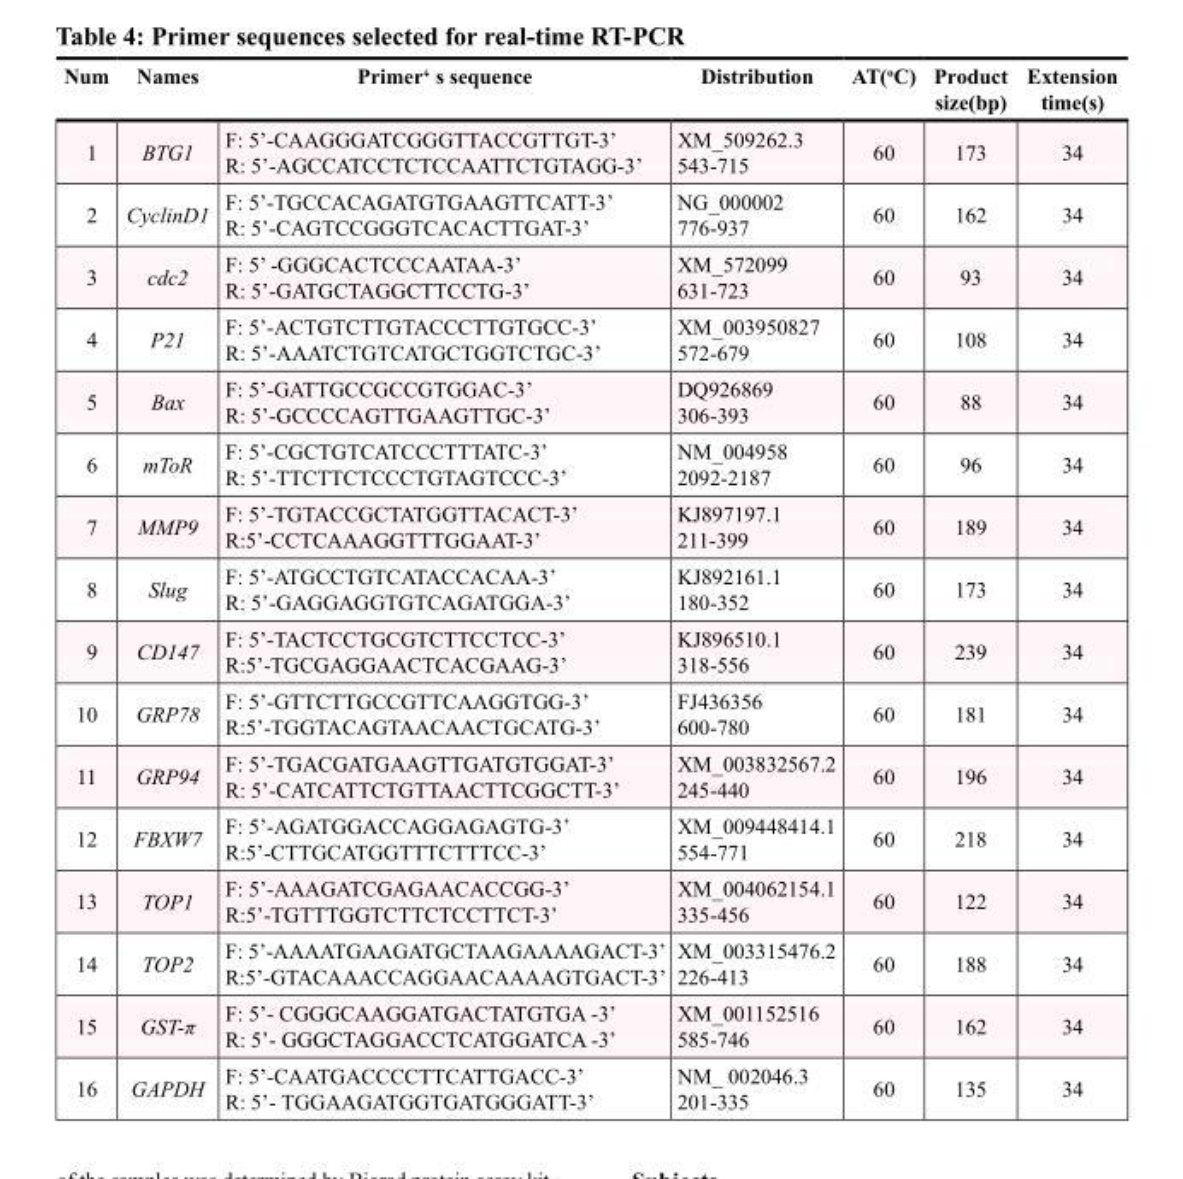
<table><thead><tr><td>Num</td><td>Names</td><td>Primer‘ s sequence</td><td>Distribution</td><td>AT(°C)</td><td>Product size(bp)</td><td>Extension time(s)</td></tr></thead><tbody><tr><td>1</td><td>BTG1</td><td>F: 5’-CAAGGGATCGGGTTACCGTTGT-3’ R: 5’-AGCCATCCTCTCCAATTCTGTAGG-3’</td><td>XM_509262.3 543-715</td><td>60</td><td>173</td><td>34</td></tr><tr><td>2</td><td>CyclinD1</td><td>F: 5’-TGCCACAGATGTGAAGTTCATT-3’ R: 5’-CAGTCCGGGTCACACTTGAT-3’</td><td>NG_000002 776-937</td><td>60</td><td>162</td><td>34</td></tr><tr><td>3</td><td>cdc2</td><td>F: 5’ -GGGCACTCCCAATAA-3’ R: 5’-GATGCTAGGCTTCCTG-3’</td><td>XM_572099 631-723</td><td>60</td><td>93</td><td>34</td></tr><tr><td>4</td><td>P21</td><td>F: 5’-ACTGTCTTGTACCCTTGTGCC-3’ R: 5’-AAATCTGTCATGCTGGTCTGC-3’</td><td>XM_003950827 572-679</td><td>60</td><td>108</td><td>34</td></tr><tr><td>5</td><td>Bax</td><td>F: 5’-GATTGCCGCCGTGGAC-3’ R: 5’-GCCCCAGTTGAAGTTGC-3’</td><td>DQ926869 306-393</td><td>60</td><td>88</td><td>34</td></tr><tr><td>6</td><td>mToR</td><td>F: 5’-CGCTGTCATCCCTTTATC-3’ R: 5’-TTCTTCTCCCTGTAGTCCC-3’</td><td>NM_004958 2092-2187</td><td>60</td><td>96</td><td>34</td></tr><tr><td>7</td><td>MMP9</td><td>F: 5’-TGTACCGCTATGGTTACACT-3’ R:5’-CCTCAAAGGTTTGGAAT-3’</td><td>KJ897197.1 211-399</td><td>60</td><td>189</td><td>34</td></tr><tr><td>8</td><td>Slug</td><td>F: 5’-ATGCCTGTCATACCACAA-3’ R: 5’-GAGGAGGTGTCAGATGGA-3’</td><td>KJ892161.1 180-352</td><td>60</td><td>173</td><td>34</td></tr><tr><td>9</td><td>CD147</td><td>F: 5’-TACTCCTGCGTCTTCCTCC-3’ R:5’-TGCGAGGAACTCACGAAG-3’</td><td>KJ896510.1 318-556</td><td>60</td><td>239</td><td>34</td></tr><tr><td>10</td><td>GRP78</td><td>F: 5’-GTTCTTGCCGTTCAAGGTGG-3’ R:5’-TGGTACAGTAACAACTGCATG-3’</td><td>FJ436356 600-780</td><td>60</td><td>181</td><td>34</td></tr><tr><td>11</td><td>GRP94</td><td>F: 5’-TGACGATGAAGTTGATGTGGAT-3’ R: 5’-CATCATTCTGTTAACTTCGGCTT-3’</td><td>XM_003832567.2 245-440</td><td>60</td><td>196</td><td>34</td></tr><tr><td>12</td><td>FBXW7</td><td>F: 5’-AGATGGACCAGGAGAGTG-3’ R:5’-CTTGCATGGTTTCTTTCC-3’</td><td>XM_009448414.1 554-771</td><td>60</td><td>218</td><td>34</td></tr><tr><td>13</td><td>TOP1</td><td>F: 5’-AAAGATCGAGAACACCGG-3’ R:5’-TGTTTGGTCTTCTCCTTCT-3’</td><td>XM_004062154.1 335-456</td><td>60</td><td>122</td><td>34</td></tr><tr><td>14</td><td>TOP2</td><td>F: 5’-AAAATGAAGATGCTAAGAAAAGACT-3’ R:5’-GTACAAACCAGGAACAAAAGTGACT-3’</td><td>XM_003315476.2 226-413</td><td>60</td><td>188</td><td>34</td></tr><tr><td>15</td><td>GST-π</td><td>F: 5’- CGGGCAAGGATGACTATGTGA -3’ R: 5’- GGGCTAGGACCTCATGGATCA -3’</td><td>XM_001152516 585-746</td><td>60</td><td>162</td><td>34</td></tr><tr><td>16</td><td>GAPDH</td><td>F: 5’-CAATGACCCCTTCATTGACC-3’ R: 5’- TGGAAGATGGTGATGGGATT-3’</td><td>NM_ 002046.3 201-335</td><td>60</td><td>135</td><td>34</td></tr></tbody></table>